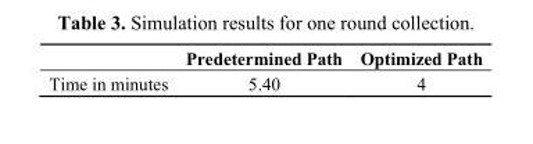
<table><thead><tr><td></td><td>Predetermined Path</td><td>Optimized Path</td></tr></thead><tbody><tr><td>Time in minutes</td><td>5.40</td><td>4</td></tr></tbody></table>